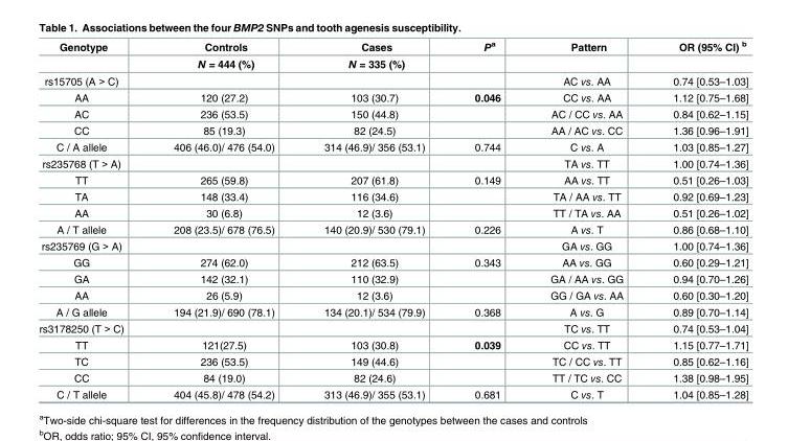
<table><thead><tr><td rowspan="2">Genotype</td><td rowspan="2">Controls N = 444 (%)</td><td rowspan="2">Cases N = 335 (%)</td><td rowspan="2">P<sup>a</sup></td><td rowspan="2">Pattern</td><td rowspan="2">OR (95% CI) <sup>b</sup></td></tr><tr></tr></thead><tbody><tr><td>rs15705 (A &gt; C)</td><td></td><td></td><td></td><td>AC vs. AA</td><td>0.74 [0.53–1.03]</td></tr><tr><td>AA</td><td>120 (27.2)</td><td>103 (30.7)</td><td>0.046</td><td>CC vs. AA</td><td>1.12 [0.75–1.68]</td></tr><tr><td>AC</td><td>236 (53.5)</td><td>150 (44.8)</td><td></td><td>AC / CC vs. AA</td><td>0.84 [0.62–1.15]</td></tr><tr><td>CC</td><td>85 (19.3)</td><td>82 (24.5)</td><td></td><td>AA / AC vs. CC</td><td>1.36 [0.96–1.91]</td></tr><tr><td>C / A allele</td><td>406 (46.0)/ 476 (54.0)</td><td>314 (46.9)/ 356 (53.1)</td><td>0.744</td><td>C vs. A</td><td>1.03 [0.85–1.27]</td></tr><tr><td>rs235768 (T &gt; A)</td><td></td><td></td><td></td><td>TA vs. TT</td><td>1.00 [0.74–1.36]</td></tr><tr><td>TT</td><td>265 (59.8)</td><td>207 (61.8)</td><td>0.149</td><td>AA vs. TT</td><td>0.51 [0.26–1.03]</td></tr><tr><td>TA</td><td>148 (33.4)</td><td>116 (34.6)</td><td></td><td>TA / AA vs. TT</td><td>0.92 [0.69–1.23]</td></tr><tr><td>AA</td><td>30 (6.8)</td><td>12 (3.6)</td><td></td><td>TT / TA vs. AA</td><td>0.51 [0.26–1.02]</td></tr><tr><td>A / T allele</td><td>208 (23.5)/ 678 (76.5)</td><td>140 (20.9)/ 530 (79.1)</td><td>0.226</td><td>A vs. T</td><td>0.86 [0.68–1.10]</td></tr><tr><td>rs235769 (G &gt; A)</td><td></td><td></td><td></td><td>GA vs. GG</td><td>1.00 [0.74–1.36]</td></tr><tr><td>GG</td><td>274 (62.0)</td><td>212 (63.5)</td><td>0.343</td><td>AA vs. GG</td><td>0.60 [0.29–1.21]</td></tr><tr><td>GA</td><td>142 (32.1)</td><td>110 (32.9)</td><td></td><td>GA / AA vs. GG</td><td>0.94 [0.70–1.26]</td></tr><tr><td>AA</td><td>26 (5.9)</td><td>12 (3.6)</td><td></td><td>GG / GA vs. AA</td><td>0.60 [0.30–1.20]</td></tr><tr><td>A / G allele</td><td>194 (21.9)/ 690 (78.1)</td><td>134 (20.1)/ 534 (79.9)</td><td>0.368</td><td>A vs. G</td><td>0.89 [0.70–1.14]</td></tr><tr><td>rs3178250 (T &gt; C)</td><td></td><td></td><td></td><td>TC vs. TT</td><td>0.74 [0.53–1.04]</td></tr><tr><td>TT</td><td>121(27.5)</td><td>103 (30.8)</td><td>0.039</td><td>CC vs. TT</td><td>1.15 [0.77–1.71]</td></tr><tr><td>TC</td><td>236 (53.5)</td><td>149 (44.6)</td><td></td><td>TC / CC vs. TT</td><td>0.85 [0.62–1.16]</td></tr><tr><td>CC</td><td>84 (19.0)</td><td>82 (24.6)</td><td></td><td>TT / TC vs. CC</td><td>1.38 [0.98–1.95]</td></tr><tr><td>C / T allele</td><td>404 (45.8)/ 478 (54.2)</td><td>313 (46.9)/ 355 (53.1)</td><td>0.681</td><td>C vs. T</td><td>1.04 [0.85–1.28]</td></tr></tbody></table>